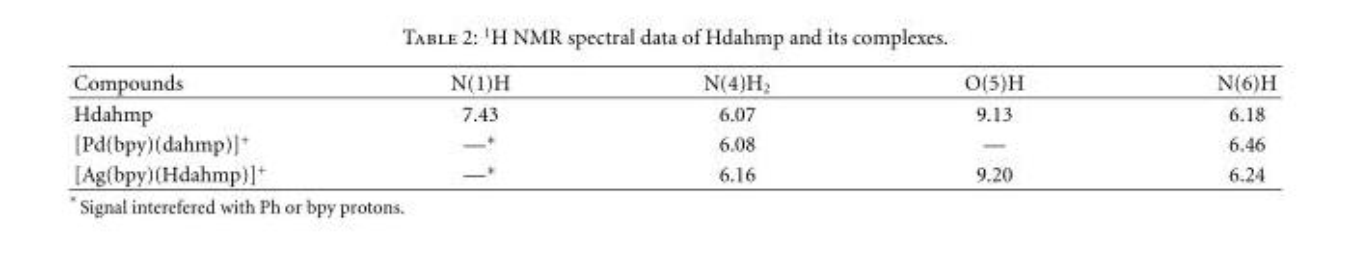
<table><thead><tr><td>Compounds</td><td>N(1)H</td><td>N(4)H<sub>2</sub></td><td>O(5)H</td><td>N(6)H</td></tr></thead><tbody><tr><td>Hdahmp</td><td>7.43</td><td>6.07</td><td>9.13</td><td>6.18</td></tr><tr><td>[Pd(bpy)(dahmp)]<sup>+</sup></td><td>—∗</td><td>6.08</td><td>—</td><td>6.46</td></tr><tr><td>[Ag(bpy)(Hdahmp)]<sup>+</sup></td><td>—∗</td><td>6.16</td><td>9.20</td><td>6.24</td></tr></tbody></table>